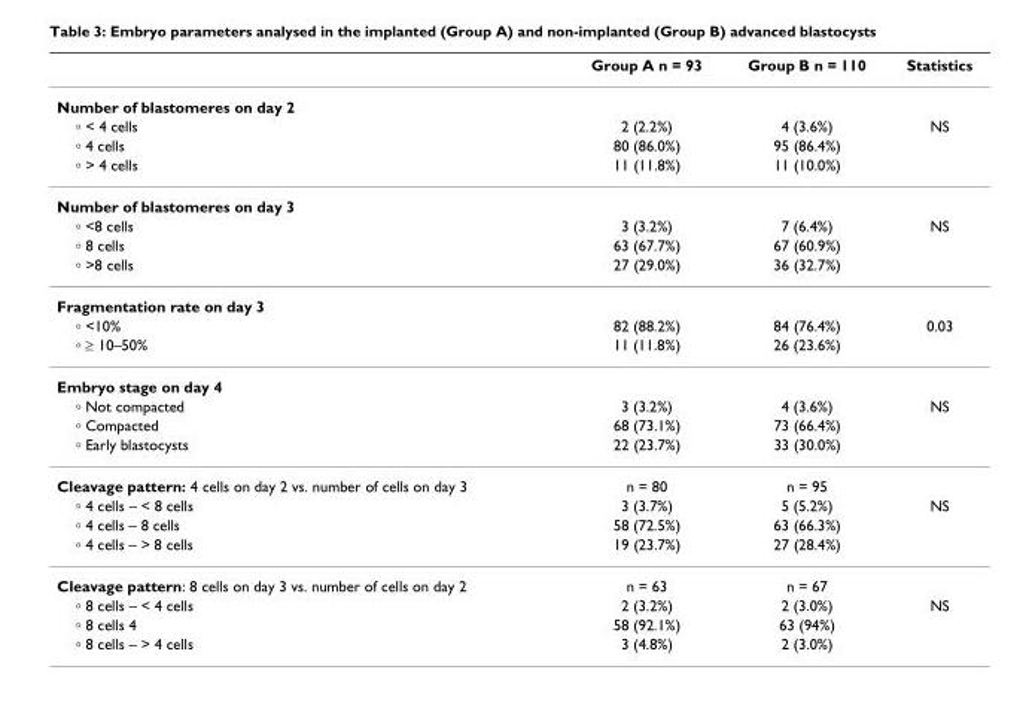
<table><thead><tr><td></td><td>Group A n = 93</td><td>Group B n = 110</td><td>Statistics</td></tr></thead><tbody><tr><td colspan="4">Number of blastomeres on day 2</td></tr><tr><td>∘ &lt; 4 cells</td><td>2 (2.2%)</td><td>4 (3.6%)</td><td>NS</td></tr><tr><td>∘ 4 cells</td><td>80 (86.0%)</td><td>95 (86.4%)</td><td></td></tr><tr><td>∘ &gt; 4 cells</td><td>11 (11.8%)</td><td>11 (10.0%)</td><td></td></tr><tr><td colspan="4">Number of blastomeres on day 3</td></tr><tr><td>∘ &lt;8 cells</td><td>3 (3.2%)</td><td>7 (6.4%)</td><td>NS</td></tr><tr><td>∘ 8 cells</td><td>63 (67.7%)</td><td>67 (60.9%)</td><td></td></tr><tr><td>∘ &gt;8 cells</td><td>27 (29.0%)</td><td>36 (32.7%)</td><td></td></tr><tr><td colspan="4">Fragmentation rate on day 3</td></tr><tr><td>∘ &lt;10%</td><td>82 (88.2%)</td><td>84 (76.4%)</td><td>0.03</td></tr><tr><td>∘ ≥ 10–50%</td><td>11 (11.8%)</td><td>26 (23.6%)</td><td></td></tr><tr><td colspan="4">Embryo stage on day 4</td></tr><tr><td>∘ Not compacted</td><td>3 (3.2%)</td><td>4 (3.6%)</td><td>NS</td></tr><tr><td>∘ Compacted</td><td>68 (73.1%)</td><td>73 (66.4%)</td><td></td></tr><tr><td>∘ Early blastocysts</td><td>22 (23.7%)</td><td>33 (30.0%)</td><td></td></tr><tr><td>Cleavage pattern: 4 cells on day 2 vs. number of cells on day 3</td><td>n = 80</td><td>n = 95</td><td></td></tr><tr><td>∘ 4 cells – &lt; 8 cells</td><td>3 (3.7%)</td><td>5 (5.2%)</td><td>NS</td></tr><tr><td>∘ 4 cells – 8 cells</td><td>58 (72.5%)</td><td>63 (66.3%)</td><td></td></tr><tr><td>∘ 4 cells – &gt; 8 cells</td><td>19 (23.7%)</td><td>27 (28.4%)</td><td></td></tr><tr><td>Cleavage pattern: 8 cells on day 3 vs. number of cells on day 2</td><td>n = 63</td><td>n = 67</td><td></td></tr><tr><td>∘ 8 cells – &lt; 4 cells</td><td>2 (3.2%)</td><td>2 (3.0%)</td><td>NS</td></tr><tr><td>∘ 8 cells 4</td><td>58 (92.1%)</td><td>63 (94%)</td><td></td></tr><tr><td>∘ 8 cells – &gt; 4 cells</td><td>3 (4.8%)</td><td>2 (3.0%)</td><td></td></tr></tbody></table>